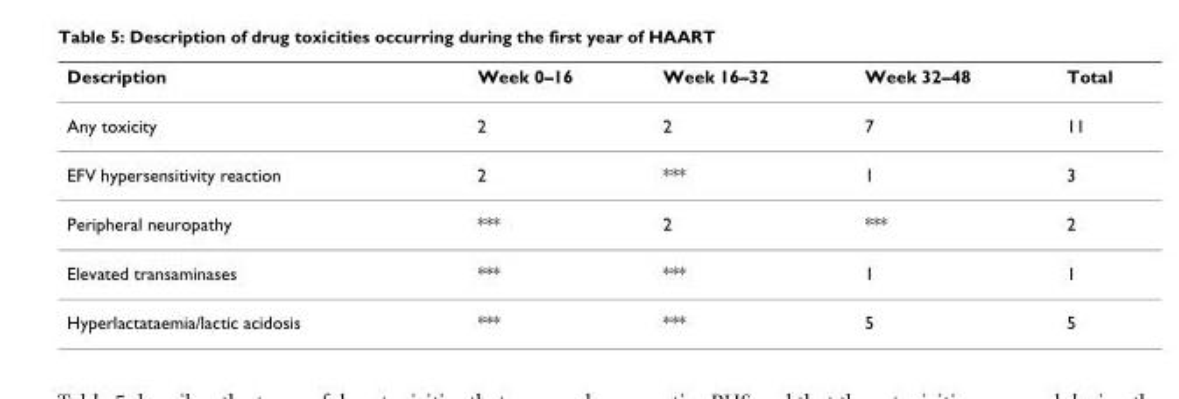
<table><thead><tr><td>Description</td><td>Week 0–16</td><td>Week 16–32</td><td>Week 32–48</td><td>Total</td></tr></thead><tbody><tr><td>Any toxicity</td><td>2</td><td>2</td><td>7</td><td>11</td></tr><tr><td>EFV hypersensitivity reaction</td><td>2</td><td>***</td><td>1</td><td>3</td></tr><tr><td>Peripheral neuropathy</td><td>***</td><td>2</td><td>***</td><td>2</td></tr><tr><td>Elevated transaminases</td><td>***</td><td>***</td><td>1</td><td>1</td></tr><tr><td>Hyperlactataemia/lactic acidosis</td><td>***</td><td>***</td><td>5</td><td>5</td></tr></tbody></table>